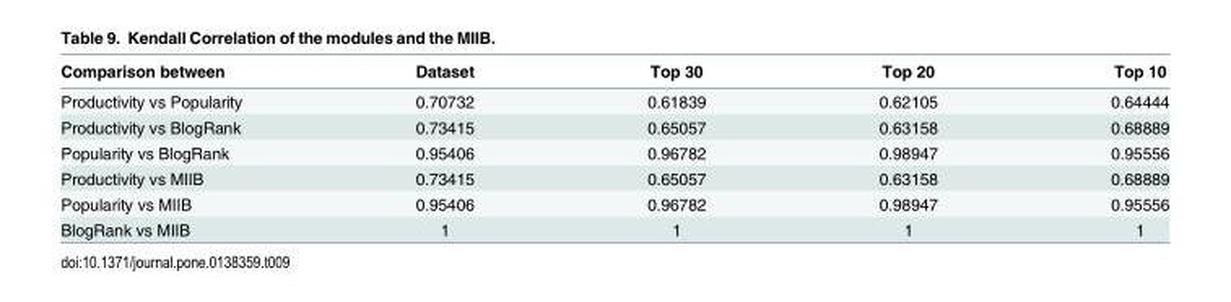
<table><thead><tr><td>Comparison between</td><td>Dataset</td><td>Top 30</td><td>Top 20</td><td>Top 10</td></tr></thead><tbody><tr><td>Productivity vs Popularity</td><td>0.70732</td><td>0.61839</td><td>0.62105</td><td>0.64444</td></tr><tr><td>Productivity vs BlogRank</td><td>0.73415</td><td>0.65057</td><td>0.63158</td><td>0.68889</td></tr><tr><td>Popularity vs BlogRank</td><td>0.95406</td><td>0.96782</td><td>0.98947</td><td>0.95556</td></tr><tr><td>Productivity vs MIIB</td><td>0.73415</td><td>0.65057</td><td>0.63158</td><td>0.68889</td></tr><tr><td>Popularity vs MIIB</td><td>0.95406</td><td>0.96782</td><td>0.98947</td><td>0.95556</td></tr><tr><td>BlogRank vs MIIB</td><td>1</td><td>1</td><td>1</td><td>1</td></tr></tbody></table>